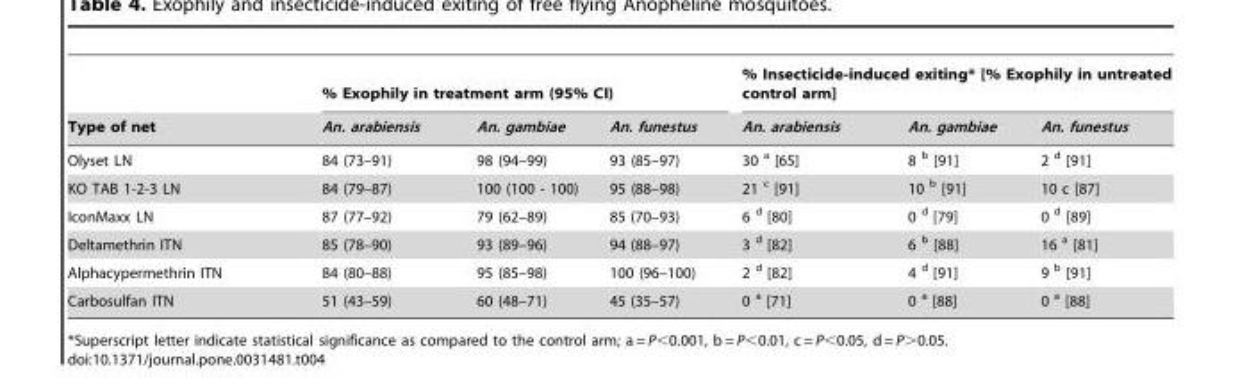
<table><thead><tr><td rowspan="2">Type of net</td><td colspan="3">% Exophily in treatment arm (95% CI)</td><td colspan="3">% Insecticide-induced exiting* [% Exophily in untreated control arm]</td></tr><tr><td>An. arabiensis</td><td>An. gambiae</td><td>An. funestus</td><td>An. arabiensis</td><td>An. gambiae</td><td>An. funestus</td></tr></thead><tbody><tr><td>Olyset LN</td><td>84 (73–91)</td><td>98 (94–99)</td><td>93 (85–97)</td><td>30 <sup>a</sup> [65]</td><td>8 <sup>b</sup> [91]</td><td>2 <sup>d</sup> [91]</td></tr><tr><td>KO TAB 1-2-3 LN</td><td>84 (79–87)</td><td>100 (100 - 100)</td><td>95 (88–98)</td><td>21 <sup>c</sup> [91]</td><td>10 <sup>b</sup> [91]</td><td>10 c [87]</td></tr><tr><td>IconMaxx LN</td><td>87 (77–92)</td><td>79 (62–89)</td><td>85 (70–93)</td><td>6 <sup>d</sup> [80]</td><td>0 <sup>d</sup> [79]</td><td>0 <sup>d</sup> [89]</td></tr><tr><td>Deltamethrin ITN</td><td>85 (78–90)</td><td>93 (89–96)</td><td>94 (88–97)</td><td>3 <sup>d</sup> [82]</td><td>6 <sup>b</sup> [88]</td><td>16 <sup>a</sup> [81]</td></tr><tr><td>Alphacypermethrin ITN</td><td>84 (80–88)</td><td>95 (85–98)</td><td>100 (96–100)</td><td>2 <sup>d</sup> [82]</td><td>4 <sup>d</sup> [91]</td><td>9 <sup>b</sup> [91]</td></tr><tr><td>Carbosulfan ITN</td><td>51 (43–59)</td><td>60 (48–71)</td><td>45 (35–57)</td><td>0 <sup>a</sup> [71]</td><td>0 <sup>a</sup> [88]</td><td>0 <sup>a</sup> [88]</td></tr></tbody></table>